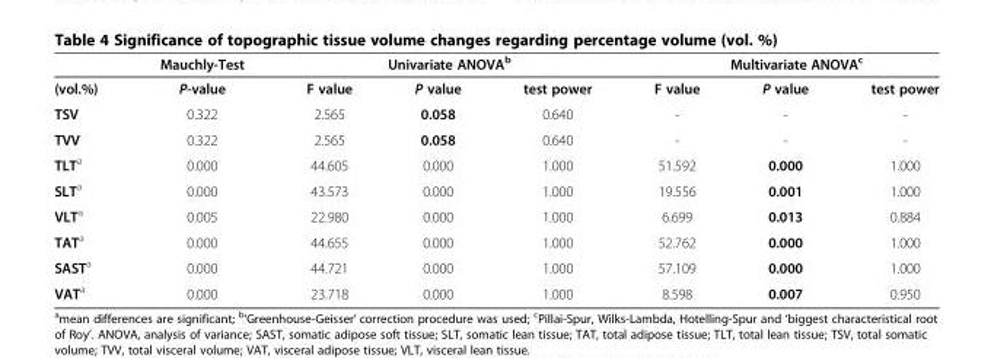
<table><thead><tr><td rowspan="2">(vol.%)</td><td rowspan="2">Mauchly-Test P-value</td><td colspan="3">Univariate ANOVA<sup>b</sup></td><td colspan="3">Multivariate ANOVA<sup>c</sup></td></tr><tr><td>F value</td><td>P value</td><td>test power</td><td>F value</td><td>P value</td><td>test power</td></tr></thead><tbody><tr><td>TSV</td><td>0.322</td><td>2.565</td><td>0.058</td><td>0.640</td><td>-</td><td>-</td><td>-</td></tr><tr><td>TVV</td><td>0.322</td><td>2.565</td><td>0.058</td><td>0.640</td><td>-</td><td>-</td><td>-</td></tr><tr><td>TLT<sup>a</sup></td><td>0.000</td><td>44.605</td><td>0.000</td><td>1.000</td><td>51.592</td><td>0.000</td><td>1.000</td></tr><tr><td>SLT<sup>a</sup></td><td>0.000</td><td>43.573</td><td>0.000</td><td>1.000</td><td>19.556</td><td>0.001</td><td>1.000</td></tr><tr><td>VLT<sup>a</sup></td><td>0.005</td><td>22.980</td><td>0.000</td><td>1.000</td><td>6.699</td><td>0.013</td><td>0.884</td></tr><tr><td>TAT<sup>a</sup></td><td>0.000</td><td>44.655</td><td>0.000</td><td>1.000</td><td>52.762</td><td>0.000</td><td>1.000</td></tr><tr><td>SAST<sup>a</sup></td><td>0.000</td><td>44.721</td><td>0.000</td><td>1.000</td><td>57.109</td><td>0.000</td><td>1.000</td></tr><tr><td>VAT<sup>a</sup></td><td>0.000</td><td>23.718</td><td>0.000</td><td>1.000</td><td>8.598</td><td>0.007</td><td>0.950</td></tr></tbody></table>